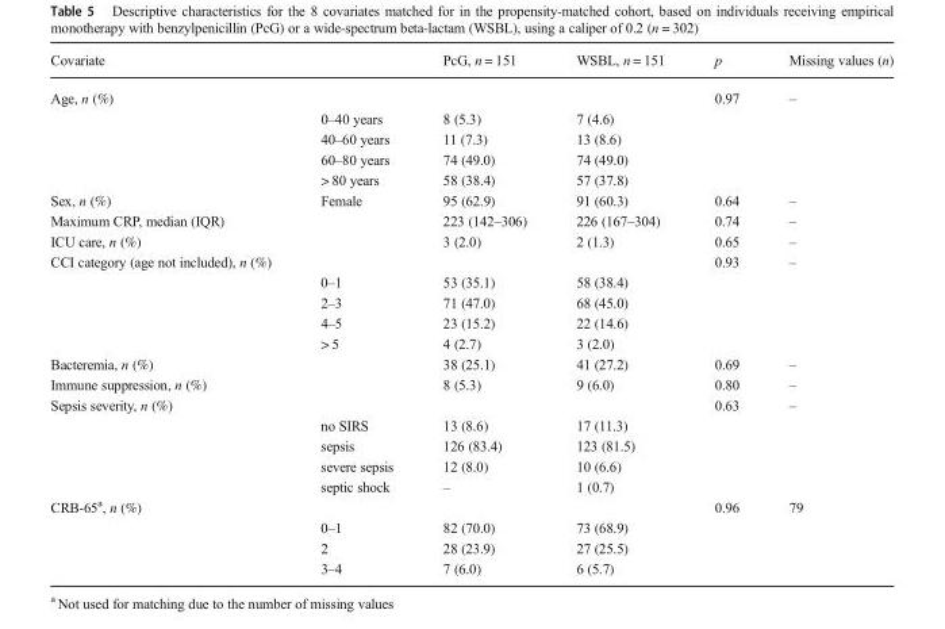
<table><thead><tr><td>Covariate</td><td></td><td>PcG, n = 151</td><td>WSBL, n = 151</td><td>p</td><td>Missing values (n)</td></tr></thead><tbody><tr><td rowspan="5">Age, n (%)</td><td></td><td></td><td></td><td>0.97</td><td>–</td></tr><tr><td>0–40 years</td><td>8 (5.3)</td><td>7 (4.6)</td><td></td><td></td></tr><tr><td>40–60 years</td><td>11 (7.3)</td><td>13 (8.6)</td><td></td><td></td></tr><tr><td>60–80 years</td><td>74 (49.0)</td><td>74 (49.0)</td><td></td><td></td></tr><tr><td>&gt; 80 years</td><td>58 (38.4)</td><td>57 (37.8)</td><td></td><td></td></tr><tr><td>Sex, n (%)</td><td>Female</td><td>95 (62.9)</td><td>91 (60.3)</td><td>0.64</td><td>–</td></tr><tr><td>Maximum CRP, median (IQR)</td><td></td><td>223 (142–306)</td><td>226 (167–304)</td><td>0.74</td><td>–</td></tr><tr><td>ICU care, n (%)</td><td></td><td>3 (2.0)</td><td>2 (1.3)</td><td>0.65</td><td>–</td></tr><tr><td rowspan="5">CCI category (age not included), n (%)</td><td></td><td></td><td></td><td>0.93</td><td>–</td></tr><tr><td>0–1</td><td>53 (35.1)</td><td>58 (38.4)</td><td></td><td></td></tr><tr><td>2–3</td><td>71 (47.0)</td><td>68 (45.0)</td><td></td><td></td></tr><tr><td>4–5</td><td>23 (15.2)</td><td>22 (14.6)</td><td></td><td></td></tr><tr><td>&gt; 5</td><td>4 (2.7)</td><td>3 (2.0)</td><td></td><td></td></tr><tr><td>Bacteremia, n (%)</td><td></td><td>38 (25.1)</td><td>41 (27.2)</td><td>0.69</td><td>–</td></tr><tr><td>Immune suppression, n (%)</td><td></td><td>8 (5.3)</td><td>9 (6.0)</td><td>0.80</td><td>–</td></tr><tr><td rowspan="5">Sepsis severity, n (%)</td><td></td><td></td><td></td><td>0.63</td><td>–</td></tr><tr><td>no SIRS</td><td>13 (8.6)</td><td>17 (11.3)</td><td></td><td></td></tr><tr><td>sepsis</td><td>126 (83.4)</td><td>123 (81.5)</td><td></td><td></td></tr><tr><td>severe sepsis</td><td>12 (8.0)</td><td>10 (6.6)</td><td></td><td></td></tr><tr><td>septic shock</td><td>–</td><td>1 (0.7)</td><td></td><td></td></tr><tr><td rowspan="4">CRB-65<sup>a</sup>, n (%)</td><td></td><td></td><td></td><td>0.96</td><td>79</td></tr><tr><td>0–1</td><td>82 (70.0)</td><td>73 (68.9)</td><td></td><td></td></tr><tr><td>2</td><td>28 (23.9)</td><td>27 (25.5)</td><td></td><td></td></tr><tr><td>3–4</td><td>7 (6.0)</td><td>6 (5.7)</td><td></td><td></td></tr></tbody></table>